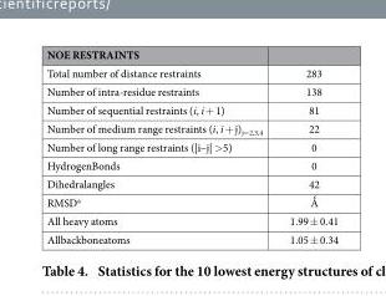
<table><thead><tr><td>NOE RESTRAINTS</td><td></td></tr></thead><tbody><tr><td>Total number of distance restraints</td><td>283</td></tr><tr><td>Number of intra-residue restraints</td><td>138</td></tr><tr><td>Number of sequential restraints (i, i + 1)</td><td>81</td></tr><tr><td>Number of medium range restraints (i, i + j)<sub>j=2,3,4</sub></td><td>22</td></tr><tr><td>Number of long range restraints (|i–j| &gt; 5)</td><td>0</td></tr><tr><td>HydrogenBonds</td><td>0</td></tr><tr><td>Dihedralangles</td><td>42</td></tr><tr><td>RMSD<sup>a</sup></td><td>Ǻ</td></tr><tr><td>All heavy atoms</td><td>1.99 ± 0.41</td></tr><tr><td>Allbackboneatoms</td><td>1.05 ± 0.34</td></tr></tbody></table>